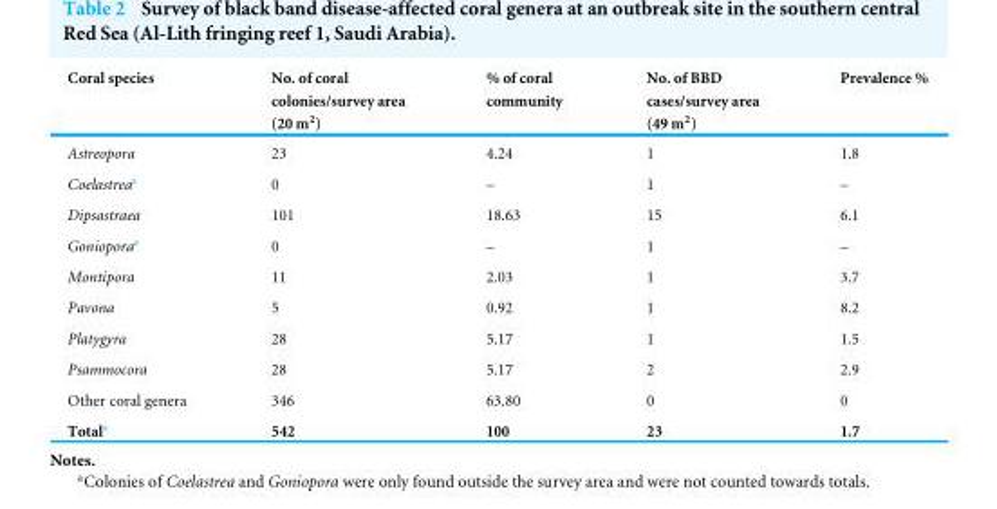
<table><thead><tr><td>Coral species</td><td>No. of coral colonies/survey area (20 m<sup>2</sup>)</td><td>% of coral community</td><td>No. of BBD cases/survey area (49 m<sup>2</sup>)</td><td>Prevalence %</td></tr></thead><tbody><tr><td>Astreopora</td><td>23</td><td>4.24</td><td>1</td><td>1.8</td></tr><tr><td>Coelastrea<sup>a</sup></td><td>0</td><td>–</td><td>1</td><td>–</td></tr><tr><td>Dipsastraea</td><td>101</td><td>18.63</td><td>15</td><td>6.1</td></tr><tr><td>Goniopora<sup>a</sup></td><td>0</td><td>–</td><td>1</td><td>–</td></tr><tr><td>Montipora</td><td>11</td><td>2.03</td><td>1</td><td>3.7</td></tr><tr><td>Pavona</td><td>5</td><td>0.92</td><td>1</td><td>8.2</td></tr><tr><td>Platygyra</td><td>28</td><td>5.17</td><td>1</td><td>1.5</td></tr><tr><td>Psammocora</td><td>28</td><td>5.17</td><td>2</td><td>2.9</td></tr><tr><td>Other coral genera</td><td>346</td><td>63.80</td><td>0</td><td>0</td></tr><tr><td>Total<sup>a</sup></td><td>542</td><td>100</td><td>23</td><td>1.7</td></tr></tbody></table>